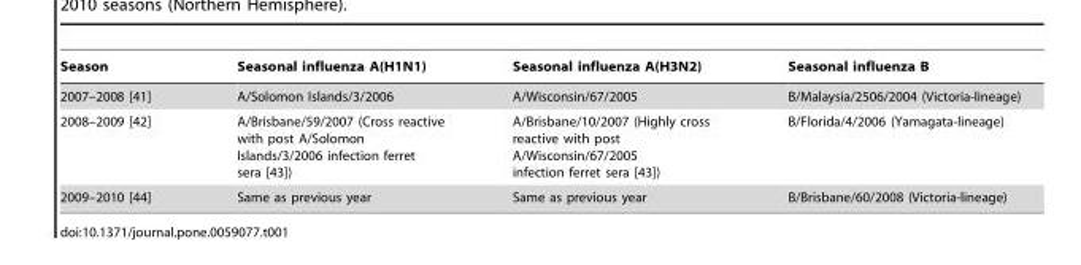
<table><thead><tr><td>Season</td><td>Seasonal influenza A(H1N1)</td><td>Seasonal influenza A(H3N2)</td><td>Seasonal influenza B</td></tr></thead><tbody><tr><td>2007–2008 [41]</td><td>A/Solomon Islands/3/2006</td><td>A/Wisconsin/67/2005</td><td>B/Malaysia/2506/2004 (Victoria-lineage)</td></tr><tr><td>2008–2009 [42]</td><td>A/Brisbane/59/2007 (Cross reactive with post A/Solomon Islands/3/2006 infection ferret sera [43])</td><td>A/Brisbane/10/2007 (Highly cross reactive with post A/Wisconsin/67/2005 infection ferret sera [43])</td><td>B/Florida/4/2006 (Yamagata-lineage)</td></tr><tr><td>2009–2010 [44]</td><td>Same as previous year</td><td>Same as previous year</td><td>B/Brisbane/60/2008 (Victoria-lineage)</td></tr></tbody></table>